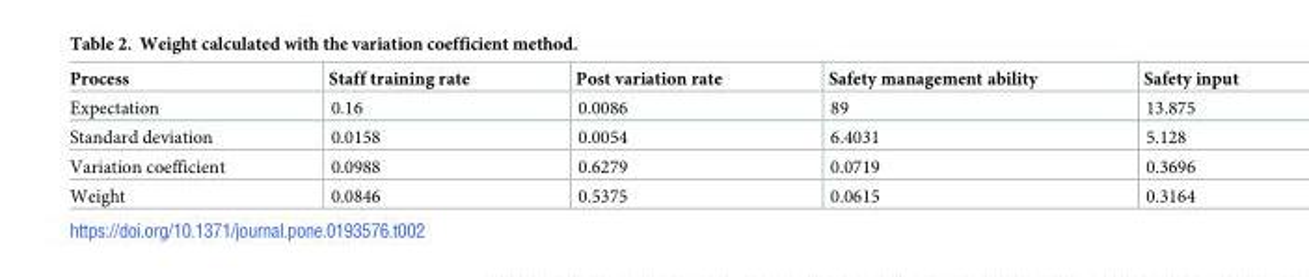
<table><thead><tr><td>Process</td><td>Staff training rate</td><td>Post variation rate</td><td>Safety management ability</td><td>Safety input</td></tr></thead><tbody><tr><td>Expectation</td><td>0.16</td><td>0.0086</td><td>89</td><td>13.875</td></tr><tr><td>Standard deviation</td><td>0.0158</td><td>0.0054</td><td>6.4031</td><td>5.128</td></tr><tr><td>Variation coefficient</td><td>0.0988</td><td>0.6279</td><td>0.0719</td><td>0.3696</td></tr><tr><td>Weight</td><td>0.0846</td><td>0.5375</td><td>0.0615</td><td>0.3164</td></tr></tbody></table>